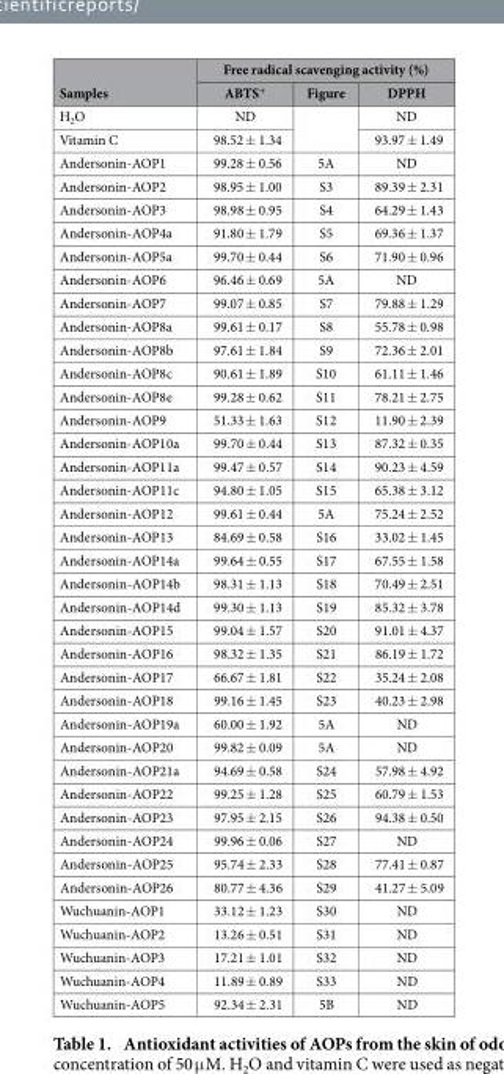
<table><thead><tr><td rowspan="2">Samples</td><td colspan="3">Free radical scavenging activity (%)</td></tr><tr><td>ABTS<sup>+</sup></td><td>Figure</td><td>DPPH</td></tr></thead><tbody><tr><td>H<sub>2</sub>O</td><td>ND</td><td rowspan="2"></td><td>ND</td></tr><tr><td>Vitamin C</td><td>98.52 ± 1.34</td><td>93.97 ± 1.49</td></tr><tr><td>Andersonin-AOP1</td><td>99.28 ± 0.56</td><td>5A</td><td>ND</td></tr><tr><td>Andersonin-AOP2</td><td>98.95 ± 1.00</td><td>S3</td><td>89.39 ± 2.31</td></tr><tr><td>Andersonin-AOP3</td><td>98.98 ± 0.95</td><td>S4</td><td>64.29 ± 1.43</td></tr><tr><td>Andersonin-AOP4a</td><td>91.80 ± 1.79</td><td>S5</td><td>69.36 ± 1.37</td></tr><tr><td>Andersonin-AOP5a</td><td>99.70 ± 0.44</td><td>S6</td><td>71.90 ± 0.96</td></tr><tr><td>Andersonin-AOP6</td><td>96.46 ± 0.69</td><td>5A</td><td>ND</td></tr><tr><td>Andersonin-AOP7</td><td>99.07 ± 0.85</td><td>S7</td><td>79.88 ± 1.29</td></tr><tr><td>Andersonin-AOP8a</td><td>99.61 ± 0.17</td><td>S8</td><td>55.78 ± 0.98</td></tr><tr><td>Andersonin-AOP8b</td><td>97.61 ± 1.84</td><td>S9</td><td>72.36 ± 2.01</td></tr><tr><td>Andersonin-AOP8c</td><td>90.61 ± 1.89</td><td>S10</td><td>61.11 ± 1.46</td></tr><tr><td>Andersonin-AOP8e</td><td>99.28 ± 0.62</td><td>S11</td><td>78.21 ± 2.75</td></tr><tr><td>Andersonin-AOP9</td><td>51.33 ± 1.63</td><td>S12</td><td>11.90 ± 2.39</td></tr><tr><td>Andersonin-AOP10a</td><td>99.70 ± 0.44</td><td>S13</td><td>87.32 ± 0.35</td></tr><tr><td>Andersonin-AOP11a</td><td>99.47 ± 0.57</td><td>S14</td><td>90.23 ± 4.59</td></tr><tr><td>Andersonin-AOP11c</td><td>94.80 ± 1.05</td><td>S15</td><td>65.38 ± 3.12</td></tr><tr><td>Andersonin-AOP12</td><td>99.61 ± 0.44</td><td>5A</td><td>75.24 ± 2.52</td></tr><tr><td>Andersonin-AOP13</td><td>84.69 ± 0.58</td><td>S16</td><td>33.02 ± 1.45</td></tr><tr><td>Andersonin-AOP14a</td><td>99.64 ± 0.55</td><td>S17</td><td>67.55 ± 1.58</td></tr><tr><td>Andersonin-AOP14b</td><td>98.31 ± 1.13</td><td>S18</td><td>70.49 ± 2.51</td></tr><tr><td>Andersonin-AOP14d</td><td>99.30 ± 1.13</td><td>S19</td><td>85.32 ± 3.78</td></tr><tr><td>Andersonin-AOP15</td><td>99.04 ± 1.57</td><td>S20</td><td>91.01 ± 4.37</td></tr><tr><td>Andersonin-AOP16</td><td>98.32 ± 1.35</td><td>S21</td><td>86.19 ± 1.72</td></tr><tr><td>Andersonin-AOP17</td><td>66.67 ± 1.81</td><td>S22</td><td>35.24 ± 2.08</td></tr><tr><td>Andersonin-AOP18</td><td>99.16 ± 1.45</td><td>S23</td><td>40.23 ± 2.98</td></tr><tr><td>Andersonin-AOP19a</td><td>60.00 ± 1.92</td><td>5A</td><td>ND</td></tr><tr><td>Andersonin-AOP20</td><td>99.82 ± 0.09</td><td>5A</td><td>ND</td></tr><tr><td>Andersonin-AOP21a</td><td>94.69 ± 0.58</td><td>S24</td><td>57.98 ± 4.92</td></tr><tr><td>Andersonin-AOP22</td><td>99.25 ± 1.28</td><td>S25</td><td>60.79 ± 1.53</td></tr><tr><td>Andersonin-AOP23</td><td>97.95 ± 2.15</td><td>S26</td><td>94.38 ± 0.50</td></tr><tr><td>Andersonin-AOP24</td><td>99.96 ± 0.06</td><td>S27</td><td>ND</td></tr><tr><td>Andersonin-AOP25</td><td>95.74 ± 2.33</td><td>S28</td><td>77.41 ± 0.87</td></tr><tr><td>Andersonin-AOP26</td><td>80.77 ± 4.36</td><td>S29</td><td>41.27 ± 5.09</td></tr><tr><td>Wuchuanin-AOP1</td><td>33.12 ± 1.23</td><td>S30</td><td>ND</td></tr><tr><td>Wuchuanin-AOP2</td><td>13.26 ± 0.51</td><td>S31</td><td>ND</td></tr><tr><td>Wuchuanin-AOP3</td><td>17.21 ± 1.01</td><td>S32</td><td>ND</td></tr><tr><td>Wuchuanin-AOP4</td><td>11.89 ± 0.89</td><td>S33</td><td>ND</td></tr><tr><td>Wuchuanin-AOP5</td><td>92.34 ± 2.31</td><td>5B</td><td>ND</td></tr></tbody></table>